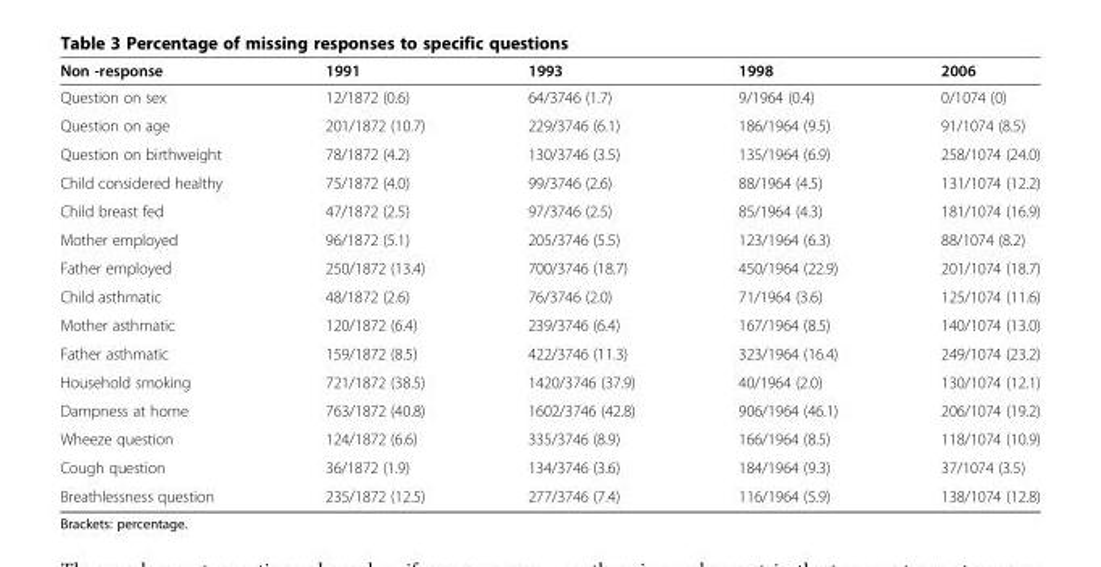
<table><thead><tr><td>Non -response</td><td>1991</td><td>1993</td><td>1998</td><td>2006</td></tr></thead><tbody><tr><td>Question on sex</td><td>12/1872 (0.6)</td><td>64/3746 (1.7)</td><td>9/1964 (0.4)</td><td>0/1074 (0)</td></tr><tr><td>Question on age</td><td>201/1872 (10.7)</td><td>229/3746 (6.1)</td><td>186/1964 (9.5)</td><td>91/1074 (8.5)</td></tr><tr><td>Question on birthweight</td><td>78/1872 (4.2)</td><td>130/3746 (3.5)</td><td>135/1964 (6.9)</td><td>258/1074 (24.0)</td></tr><tr><td>Child considered healthy</td><td>75/1872 (4.0)</td><td>99/3746 (2.6)</td><td>88/1964 (4.5)</td><td>131/1074 (12.2)</td></tr><tr><td>Child breast fed</td><td>47/1872 (2.5)</td><td>97/3746 (2.5)</td><td>85/1964 (4.3)</td><td>181/1074 (16.9)</td></tr><tr><td>Mother employed</td><td>96/1872 (5.1)</td><td>205/3746 (5.5)</td><td>123/1964 (6.3)</td><td>88/1074 (8.2)</td></tr><tr><td>Father employed</td><td>250/1872 (13.4)</td><td>700/3746 (18.7)</td><td>450/1964 (22.9)</td><td>201/1074 (18.7)</td></tr><tr><td>Child asthmatic</td><td>48/1872 (2.6)</td><td>76/3746 (2.0)</td><td>71/1964 (3.6)</td><td>125/1074 (11.6)</td></tr><tr><td>Mother asthmatic</td><td>120/1872 (6.4)</td><td>239/3746 (6.4)</td><td>167/1964 (8.5)</td><td>140/1074 (13.0)</td></tr><tr><td>Father asthmatic</td><td>159/1872 (8.5)</td><td>422/3746 (11.3)</td><td>323/1964 (16.4)</td><td>249/1074 (23.2)</td></tr><tr><td>Household smoking</td><td>721/1872 (38.5)</td><td>1420/3746 (37.9)</td><td>40/1964 (2.0)</td><td>130/1074 (12.1)</td></tr><tr><td>Dampness at home</td><td>763/1872 (40.8)</td><td>1602/3746 (42.8)</td><td>906/1964 (46.1)</td><td>206/1074 (19.2)</td></tr><tr><td>Wheeze question</td><td>124/1872 (6.6)</td><td>335/3746 (8.9)</td><td>166/1964 (8.5)</td><td>118/1074 (10.9)</td></tr><tr><td>Cough question</td><td>36/1872 (1.9)</td><td>134/3746 (3.6)</td><td>184/1964 (9.3)</td><td>37/1074 (3.5)</td></tr><tr><td>Breathlessness question</td><td>235/1872 (12.5)</td><td>277/3746 (7.4)</td><td>116/1964 (5.9)</td><td>138/1074 (12.8)</td></tr></tbody></table>